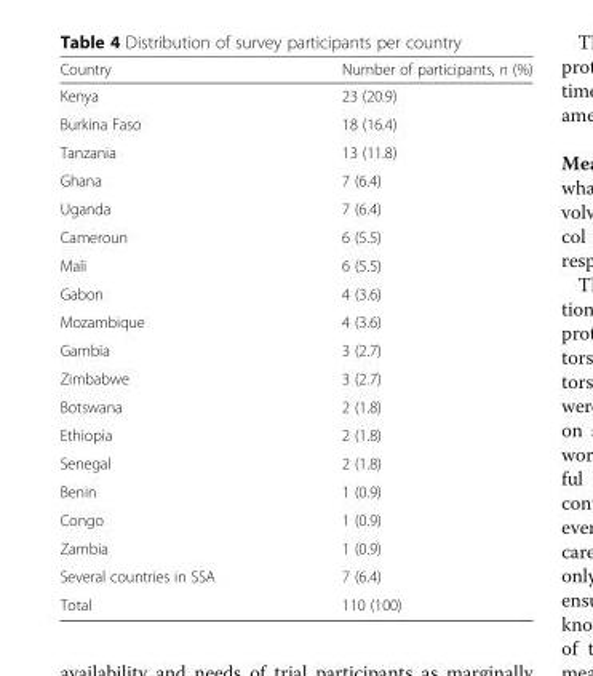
<table><thead><tr><td>Country</td><td>Number of participants, n (%)</td></tr></thead><tbody><tr><td>Kenya</td><td>23 (20.9)</td></tr><tr><td>Burkina Faso</td><td>18 (16.4)</td></tr><tr><td>Tanzania</td><td>13 (11.8)</td></tr><tr><td>Ghana</td><td>7 (6.4)</td></tr><tr><td>Uganda</td><td>7 (6.4)</td></tr><tr><td>Cameroun</td><td>6 (5.5)</td></tr><tr><td>Mali</td><td>6 (5.5)</td></tr><tr><td>Gabon</td><td>4 (3.6)</td></tr><tr><td>Mozambique</td><td>4 (3.6)</td></tr><tr><td>Gambia</td><td>3 (2.7)</td></tr><tr><td>Zimbabwe</td><td>3 (2.7)</td></tr><tr><td>Botswana</td><td>2 (1.8)</td></tr><tr><td>Ethiopia</td><td>2 (1.8)</td></tr><tr><td>Senegal</td><td>2 (1.8)</td></tr><tr><td>Benin</td><td>1 (0.9)</td></tr><tr><td>Congo</td><td>1 (0.9)</td></tr><tr><td>Zambia</td><td>1 (0.9)</td></tr><tr><td>Several countries in SSA</td><td>7 (6.4)</td></tr><tr><td>Total</td><td>110 (100)</td></tr></tbody></table>